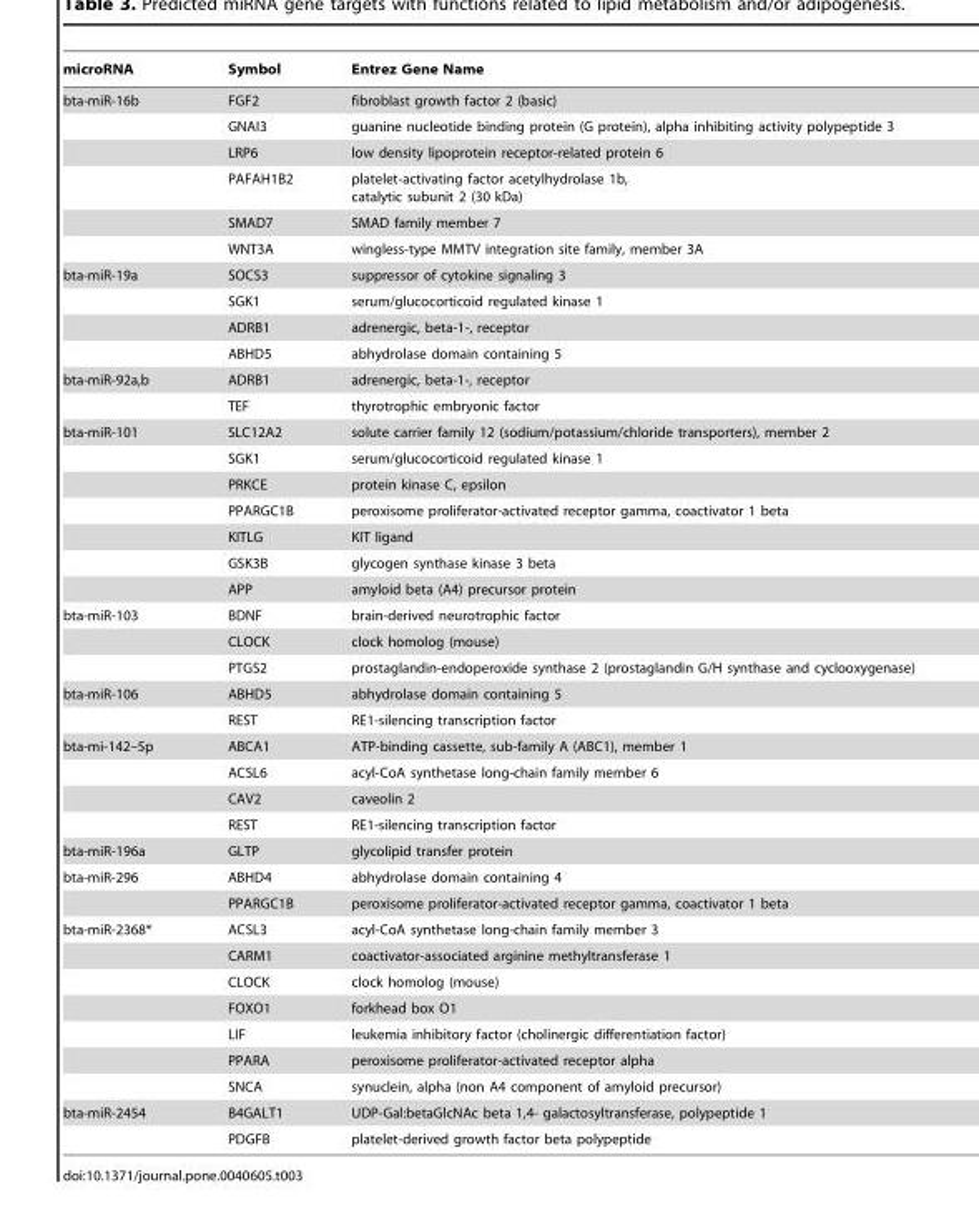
<table><thead><tr><td>microRNA</td><td>Symbol</td><td>Entrez Gene Name</td></tr></thead><tbody><tr><td rowspan="6">bta-miR-16b</td><td>FGF2</td><td>fibroblast growth factor 2 (basic)</td></tr><tr><td>GNAI3</td><td>guanine nucleotide binding protein (G protein), alpha inhibiting activity polypeptide 3</td></tr><tr><td>LRP6</td><td>low density lipoprotein receptor-related protein 6</td></tr><tr><td>PAFAH1B2</td><td>platelet-activating factor acetylhydrolase 1b, catalytic subunit 2 (30 kDa)</td></tr><tr><td>SMAD7</td><td>SMAD family member 7</td></tr><tr><td>WNT3A</td><td>wingless-type MMTV integration site family, member 3A</td></tr><tr><td rowspan="4">bta-miR-19a</td><td>SOCS3</td><td>suppressor of cytokine signaling 3</td></tr><tr><td>SGK1</td><td>serum/glucocorticoid regulated kinase 1</td></tr><tr><td>ADRB1</td><td>adrenergic, beta-1-, receptor</td></tr><tr><td>ABHD5</td><td>abhydrolase domain containing 5</td></tr><tr><td rowspan="2">bta-miR-92a,b</td><td>ADRB1</td><td>adrenergic, beta-1-, receptor</td></tr><tr><td>TEF</td><td>thyrotrophic embryonic factor</td></tr><tr><td rowspan="7">bta-miR-101</td><td>SLC12A2</td><td>solute carrier family 12 (sodium/potassium/chloride transporters), member 2</td></tr><tr><td>SGK1</td><td>serum/glucocorticoid regulated kinase 1</td></tr><tr><td>PRKCE</td><td>protein kinase C, epsilon</td></tr><tr><td>PPARGC1B</td><td>peroxisome proliferator-activated receptor gamma, coactivator 1 beta</td></tr><tr><td>KITLG</td><td>KIT ligand</td></tr><tr><td>GSK3B</td><td>glycogen synthase kinase 3 beta</td></tr><tr><td>APP</td><td>amyloid beta (A4) precursor protein</td></tr><tr><td rowspan="3">bta-miR-103</td><td>BDNF</td><td>brain-derived neurotrophic factor</td></tr><tr><td>CLOCK</td><td>clock homolog (mouse)</td></tr><tr><td>PTGS2</td><td>prostaglandin-endoperoxide synthase 2 (prostaglandin G/H synthase and cyclooxygenase)</td></tr><tr><td rowspan="2">bta-miR-106</td><td>ABHD5</td><td>abhydrolase domain containing 5</td></tr><tr><td>REST</td><td>RE1-silencing transcription factor</td></tr><tr><td rowspan="4">bta-mi-142–5p</td><td>ABCA1</td><td>ATP-binding cassette, sub-family A (ABC1), member 1</td></tr><tr><td>ACSL6</td><td>acyl-CoA synthetase long-chain family member 6</td></tr><tr><td>CAV2</td><td>caveolin 2</td></tr><tr><td>REST</td><td>RE1-silencing transcription factor</td></tr><tr><td>bta-miR-196a</td><td>GLTP</td><td>glycolipid transfer protein</td></tr><tr><td rowspan="2">bta-miR-296</td><td>ABHD4</td><td>abhydrolase domain containing 4</td></tr><tr><td>PPARGC1B</td><td>peroxisome proliferator-activated receptor gamma, coactivator 1 beta</td></tr><tr><td rowspan="7">bta-miR-2368*</td><td>ACSL3</td><td>acyl-CoA synthetase long-chain family member 3</td></tr><tr><td>CARM1</td><td>coactivator-associated arginine methyltransferase 1</td></tr><tr><td>CLOCK</td><td>clock homolog (mouse)</td></tr><tr><td>FOXO1</td><td>forkhead box O1</td></tr><tr><td>LIF</td><td>leukemia inhibitory factor (cholinergic differentiation factor)</td></tr><tr><td>PPARA</td><td>peroxisome proliferator-activated receptor alpha</td></tr><tr><td>SNCA</td><td>synuclein, alpha (non A4 component of amyloid precursor)</td></tr><tr><td rowspan="2">bta-miR-2454</td><td>B4GALT1</td><td>UDP-Gal:betaGlcNAc beta 1,4- galactosyltransferase, polypeptide 1</td></tr><tr><td>PDGFB</td><td>platelet-derived growth factor beta polypeptide</td></tr></tbody></table>